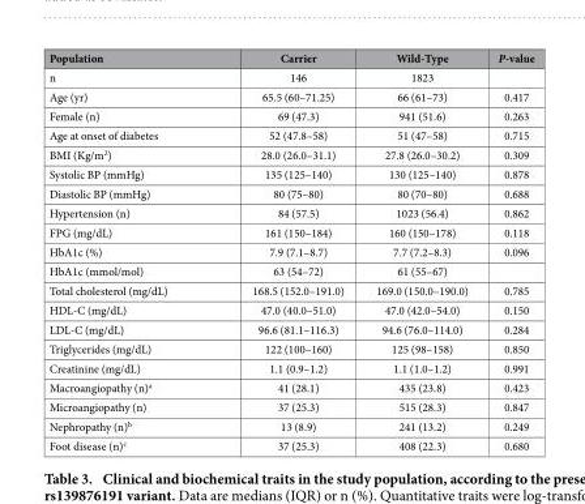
<table><thead><tr><td>Population</td><td>Carrier</td><td>Wild-Type</td><td>P-value</td></tr></thead><tbody><tr><td>n</td><td>146</td><td>1823</td><td></td></tr><tr><td>Age (yr)</td><td>65.5 (60–71.25)</td><td>66 (61–73)</td><td>0.417</td></tr><tr><td>Female (n)</td><td>69 (47.3)</td><td>941 (51.6)</td><td>0.263</td></tr><tr><td>Age at onset of diabetes</td><td>52 (47.8–58)</td><td>51 (47–58)</td><td>0.715</td></tr><tr><td>BMI (Kg/m<sup>2</sup>)</td><td>28.0 (26.0–31.1)</td><td>27.8 (26.0–30.2)</td><td>0.309</td></tr><tr><td>Systolic BP (mmHg)</td><td>135 (125–140)</td><td>130 (125–140)</td><td>0.878</td></tr><tr><td>Diastolic BP (mmHg)</td><td>80 (75–80)</td><td>80 (70–80)</td><td>0.688</td></tr><tr><td>Hypertension (n)</td><td>84 (57.5)</td><td>1023 (56.4)</td><td>0.862</td></tr><tr><td>FPG (mg/dL)</td><td>161 (150–184)</td><td>160 (150–178)</td><td>0.118</td></tr><tr><td>HbA1c (%)</td><td>7.9 (7.1–8.7)</td><td>7.7 (7.2–8.3)</td><td>0.096</td></tr><tr><td>HbA1c (mmol/mol)</td><td>63 (54–72)</td><td>61 (55–67)</td><td></td></tr><tr><td>Total cholesterol (mg/dL)</td><td>168.5 (152.0–191.0)</td><td>169.0 (150.0–190.0)</td><td>0.785</td></tr><tr><td>HDL-C (mg/dL)</td><td>47.0 (40.0–51.0)</td><td>47.0 (42.0–54.0)</td><td>0.150</td></tr><tr><td>LDL-C (mg/dL)</td><td>96.6 (81.1–116.3)</td><td>94.6 (76.0–114.0)</td><td>0.284</td></tr><tr><td>Triglycerides (mg/dL)</td><td>122 (100–160)</td><td>125 (98–158)</td><td>0.850</td></tr><tr><td>Creatinine (mg/dL)</td><td>1.1 (0.9–1.2)</td><td>1.1 (1.0–1.2)</td><td>0.991</td></tr><tr><td>Macroangiopathy (n)<sup>a</sup></td><td>41 (28.1)</td><td>435 (23.8)</td><td>0.423</td></tr><tr><td>Microangiopathy (n)</td><td>37 (25.3)</td><td>515 (28.3)</td><td>0.847</td></tr><tr><td>Nephropathy (n)<sup>b</sup></td><td>13 (8.9)</td><td>241 (13.2)</td><td>0.249</td></tr><tr><td>Foot disease (n)<sup>c</sup></td><td>37 (25.3)</td><td>408 (22.3)</td><td>0.680</td></tr></tbody></table>